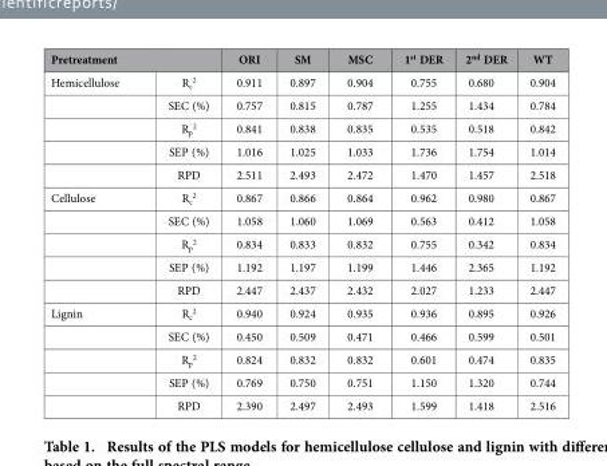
<table><thead><tr><td colspan="2">Pretreatment</td><td rowspan="2">ORI 0.911</td><td rowspan="2">SM 0.897</td><td rowspan="2">MSC 0.904</td><td rowspan="2">1<sup>st</sup> DER 0.755</td><td rowspan="2">2<sup>nd</sup> DER 0.680</td><td rowspan="2">WT 0.904</td></tr><tr><td>Hemicellulose</td><td>R<sub>c</sub> <sup>2</sup></td></tr></thead><tbody><tr><td></td><td>SEC (%)</td><td>0.757</td><td>0.815</td><td>0.787</td><td>1.255</td><td>1.434</td><td>0.784</td></tr><tr><td></td><td>R<sub>p</sub> <sup>2</sup></td><td>0.841</td><td>0.838</td><td>0.835</td><td>0.535</td><td>0.518</td><td>0.842</td></tr><tr><td></td><td>SEP (%)</td><td>1.016</td><td>1.025</td><td>1.033</td><td>1.736</td><td>1.754</td><td>1.014</td></tr><tr><td></td><td>RPD</td><td>2.511</td><td>2.493</td><td>2.472</td><td>1.470</td><td>1.457</td><td>2.518</td></tr><tr><td rowspan="5">Cellulose</td><td>R<sub>c</sub> <sup>2</sup></td><td>0.867</td><td>0.866</td><td>0.864</td><td>0.962</td><td>0.980</td><td>0.867</td></tr><tr><td>SEC (%)</td><td>1.058</td><td>1.060</td><td>1.069</td><td>0.563</td><td>0.412</td><td>1.058</td></tr><tr><td>R<sub>p</sub> <sup>2</sup></td><td>0.834</td><td>0.833</td><td>0.832</td><td>0.755</td><td>0.342</td><td>0.834</td></tr><tr><td>SEP (%)</td><td>1.192</td><td>1.197</td><td>1.199</td><td>1.446</td><td>2.365</td><td>1.192</td></tr><tr><td>RPD</td><td>2.447</td><td>2.437</td><td>2.432</td><td>2.027</td><td>1.233</td><td>2.447</td></tr><tr><td rowspan="5">Lignin</td><td>R<sub>c</sub> <sup>2</sup></td><td>0.940</td><td>0.924</td><td>0.935</td><td>0.936</td><td>0.895</td><td>0.926</td></tr><tr><td>SEC (%)</td><td>0.450</td><td>0.509</td><td>0.471</td><td>0.466</td><td>0.599</td><td>0.501</td></tr><tr><td>R<sub>p</sub> <sup>2</sup></td><td>0.824</td><td>0.832</td><td>0.832</td><td>0.601</td><td>0.474</td><td>0.835</td></tr><tr><td>SEP (%)</td><td>0.769</td><td>0.750</td><td>0.751</td><td>1.150</td><td>1.320</td><td>0.744</td></tr><tr><td>RPD</td><td>2.390</td><td>2.497</td><td>2.493</td><td>1.599</td><td>1.418</td><td>2.516</td></tr></tbody></table>